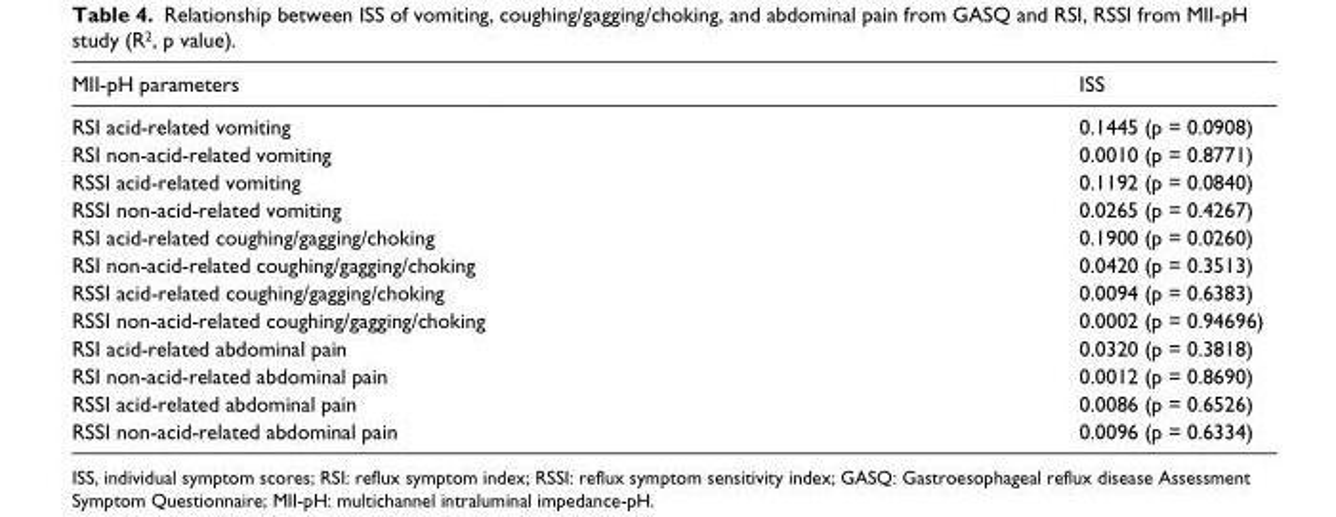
<table><thead><tr><td>MII-pH parameters</td><td>ISS</td></tr></thead><tbody><tr><td>RSI acid-related vomiting</td><td>0.1445 (p = 0.0908)</td></tr><tr><td>RSI non-acid-related vomiting</td><td>0.0010 (p = 0.8771)</td></tr><tr><td>RSSI acid-related vomiting</td><td>0.1192 (p = 0.0840)</td></tr><tr><td>RSSI non-acid-related vomiting</td><td>0.0265 (p = 0.4267)</td></tr><tr><td>RSI acid-related coughing/gagging/choking</td><td>0.1900 (p = 0.0260)</td></tr><tr><td>RSI non-acid-related coughing/gagging/choking</td><td>0.0420 (p = 0.3513)</td></tr><tr><td>RSSI acid-related coughing/gagging/choking</td><td>0.0094 (p = 0.6383)</td></tr><tr><td>RSSI non-acid-related coughing/gagging/choking</td><td>0.0002 (p = 0.94696)</td></tr><tr><td>RSI acid-related abdominal pain</td><td>0.0320 (p = 0.3818)</td></tr><tr><td>RSI non-acid-related abdominal pain</td><td>0.0012 (p = 0.8690)</td></tr><tr><td>RSSI acid-related abdominal pain</td><td>0.0086 (p = 0.6526)</td></tr><tr><td>RSSI non-acid-related abdominal pain</td><td>0.0096 (p = 0.6334)</td></tr></tbody></table>